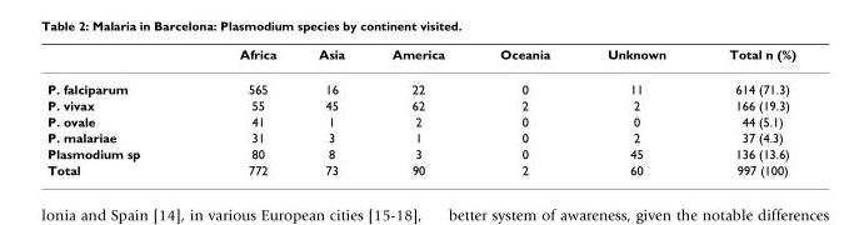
<table><thead><tr><td></td><td>Africa</td><td>Asia</td><td>America</td><td>Oceania</td><td>Unknown</td><td>Total n (%)</td></tr></thead><tbody><tr><td>P. falciparum</td><td>565</td><td>16</td><td>22</td><td>0</td><td>11</td><td>614 (71.3)</td></tr><tr><td>P. vivax</td><td>55</td><td>45</td><td>62</td><td>2</td><td>2</td><td>166 (19.3)</td></tr><tr><td>P. ovale</td><td>41</td><td>1</td><td>2</td><td>0</td><td>0</td><td>44 (5.1)</td></tr><tr><td>P. malariae</td><td>31</td><td>3</td><td>1</td><td>0</td><td>2</td><td>37 (4.3)</td></tr><tr><td>Plasmodium sp</td><td>80</td><td>8</td><td>3</td><td>0</td><td>45</td><td>136 (13.6)</td></tr><tr><td>Total</td><td>772</td><td>73</td><td>90</td><td>2</td><td>60</td><td>997 (100)</td></tr></tbody></table>